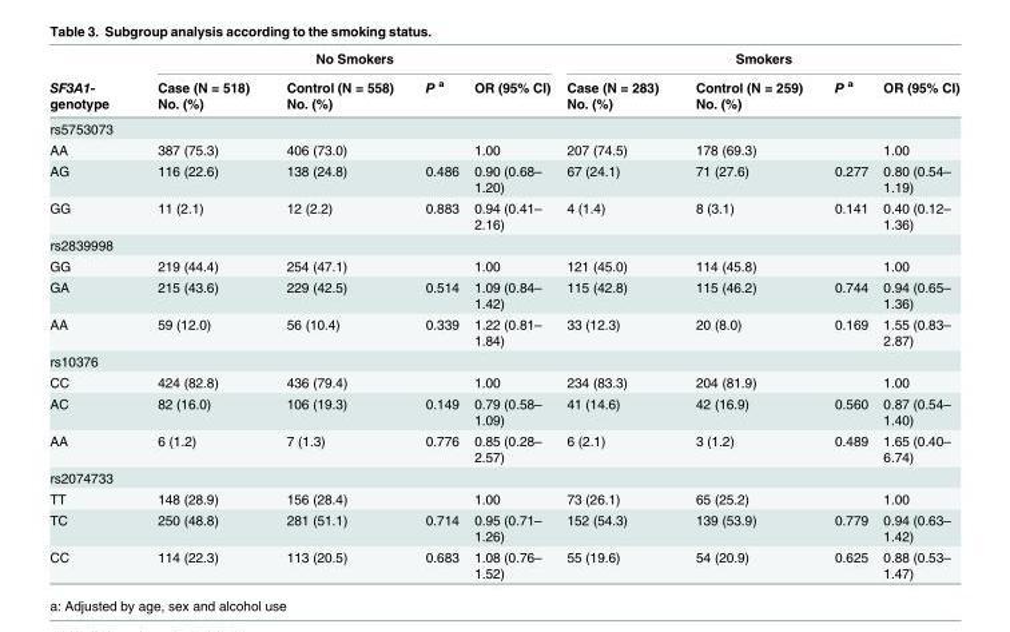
<table><thead><tr><td rowspan="2">SF3A1- genotype</td><td colspan="4">No Smokers</td><td colspan="4">Smokers</td></tr><tr><td>Case (N = 518) No. (%)</td><td>Control (N = 558) No. (%)</td><td>P <sup>a</sup></td><td>OR (95% CI)</td><td>Case (N = 283) No. (%)</td><td>Control (N = 259) No. (%)</td><td>P <sup>a</sup></td><td>OR (95% CI)</td></tr></thead><tbody><tr><td colspan="9">rs5753073</td></tr><tr><td>AA</td><td>387 (75.3)</td><td>406 (73.0)</td><td></td><td>1.00</td><td>207 (74.5)</td><td>178 (69.3)</td><td></td><td>1.00</td></tr><tr><td>AG</td><td>116 (22.6)</td><td>138 (24.8)</td><td>0.486</td><td>0.90 (0.68– 1.20)</td><td>67 (24.1)</td><td>71 (27.6)</td><td>0.277</td><td>0.80 (0.54– 1.19)</td></tr><tr><td>GG</td><td>11 (2.1)</td><td>12 (2.2)</td><td>0.883</td><td>0.94 (0.41– 2.16)</td><td>4 (1.4)</td><td>8 (3.1)</td><td>0.141</td><td>0.40 (0.12– 1.36)</td></tr><tr><td colspan="9">rs2839998</td></tr><tr><td>GG</td><td>219 (44.4)</td><td>254 (47.1)</td><td></td><td>1.00</td><td>121 (45.0)</td><td>114 (45.8)</td><td></td><td>1.00</td></tr><tr><td>GA</td><td>215 (43.6)</td><td>229 (42.5)</td><td>0.514</td><td>1.09 (0.84– 1.42)</td><td>115 (42.8)</td><td>115 (46.2)</td><td>0.744</td><td>0.94 (0.65– 1.36)</td></tr><tr><td>AA</td><td>59 (12.0)</td><td>56 (10.4)</td><td>0.339</td><td>1.22 (0.81– 1.84)</td><td>33 (12.3)</td><td>20 (8.0)</td><td>0.169</td><td>1.55 (0.83– 2.87)</td></tr><tr><td colspan="9">rs10376</td></tr><tr><td>CC</td><td>424 (82.8)</td><td>436 (79.4)</td><td></td><td>1.00</td><td>234 (83.3)</td><td>204 (81.9)</td><td></td><td>1.00</td></tr><tr><td>AC</td><td>82 (16.0)</td><td>106 (19.3)</td><td>0.149</td><td>0.79 (0.58– 1.09)</td><td>41 (14.6)</td><td>42 (16.9)</td><td>0.560</td><td>0.87 (0.54– 1.40)</td></tr><tr><td>AA</td><td>6 (1.2)</td><td>7 (1.3)</td><td>0.776</td><td>0.85 (0.28– 2.57)</td><td>6 (2.1)</td><td>3 (1.2)</td><td>0.489</td><td>1.65 (0.40– 6.74)</td></tr><tr><td colspan="9">rs2074733</td></tr><tr><td>TT</td><td>148 (28.9)</td><td>156 (28.4)</td><td></td><td>1.00</td><td>73 (26.1)</td><td>65 (25.2)</td><td></td><td>1.00</td></tr><tr><td>TC</td><td>250 (48.8)</td><td>281 (51.1)</td><td>0.714</td><td>0.95 (0.71– 1.26)</td><td>152 (54.3)</td><td>139 (53.9)</td><td>0.779</td><td>0.94 (0.63– 1.42)</td></tr><tr><td>CC</td><td>114 (22.3)</td><td>113 (20.5)</td><td>0.683</td><td>1.08 (0.76– 1.52)</td><td>55 (19.6)</td><td>54 (20.9)</td><td>0.625</td><td>0.88 (0.53– 1.47)</td></tr></tbody></table>